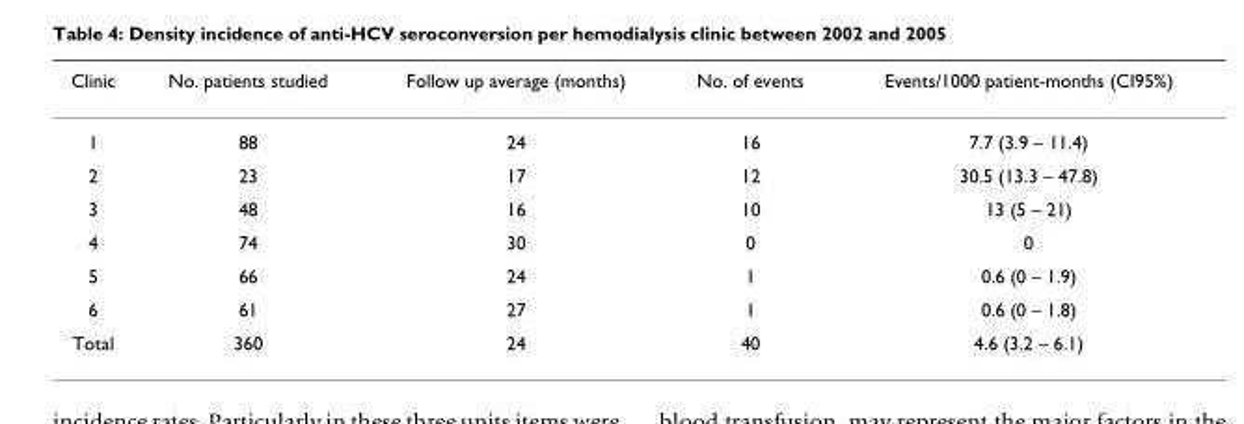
<table><thead><tr><td>Clinic</td><td>No. patients studied</td><td>Follow up average (months)</td><td>No. of events</td><td>Events/1000 patient-months (CI95%)</td></tr></thead><tbody><tr><td>1</td><td>88</td><td>24</td><td>16</td><td>7.7 (3.9 – 11.4)</td></tr><tr><td>2</td><td>23</td><td>17</td><td>12</td><td>30.5 (13.3 – 47.8)</td></tr><tr><td>3</td><td>48</td><td>16</td><td>10</td><td>13 (5 – 21)</td></tr><tr><td>4</td><td>74</td><td>30</td><td>0</td><td>0</td></tr><tr><td>5</td><td>66</td><td>24</td><td>1</td><td>0.6 (0 – 1.9)</td></tr><tr><td>6</td><td>61</td><td>27</td><td>1</td><td>0.6 (0 – 1.8)</td></tr><tr><td>Total</td><td>360</td><td>24</td><td>40</td><td>4.6 (3.2 – 6.1)</td></tr></tbody></table>